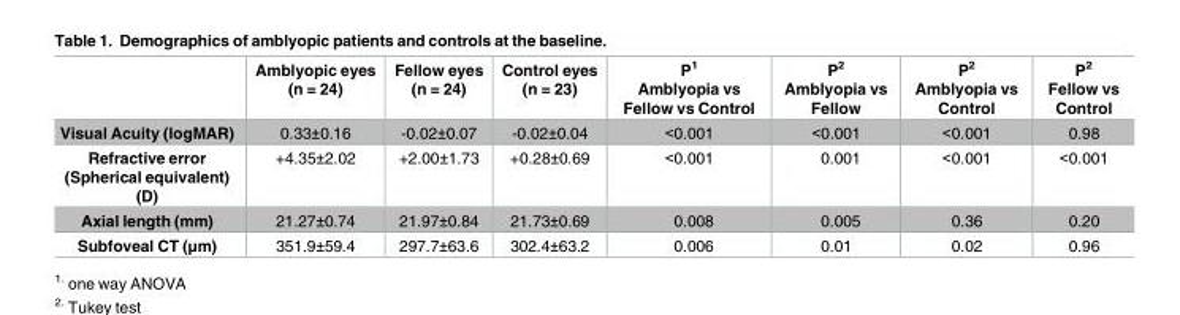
<table><thead><tr><td></td><td>Amblyopic eyes (n = 24)</td><td>Fellow eyes (n = 24)</td><td>Control eyes (n = 23)</td><td>P<sup>1</sup> Amblyopia vs Fellow vs Control</td><td>P<sup>2</sup> Amblyopia vs Fellow</td><td>P<sup>2</sup> Amblyopia vs Control</td><td>P<sup>2</sup> Fellow vs Control</td></tr></thead><tbody><tr><td>Visual Acuity (logMAR)</td><td>0.33±0.16</td><td>-0.02±0.07</td><td>-0.02±0.04</td><td>&lt;0.001</td><td>&lt;0.001</td><td>&lt;0.001</td><td>0.98</td></tr><tr><td>Refractive error (Spherical equivalent) (D)</td><td>+4.35±2.02</td><td>+2.00±1.73</td><td>+0.28±0.69</td><td>&lt;0.001</td><td>0.001</td><td>&lt;0.001</td><td>&lt;0.001</td></tr><tr><td>Axial length (mm)</td><td>21.27±0.74</td><td>21.97±0.84</td><td>21.73±0.69</td><td>0.008</td><td>0.005</td><td>0.36</td><td>0.20</td></tr><tr><td>Subfoveal CT (μm)</td><td>351.9±59.4</td><td>297.7±63.6</td><td>302.4±63.2</td><td>0.006</td><td>0.01</td><td>0.02</td><td>0.96</td></tr></tbody></table>